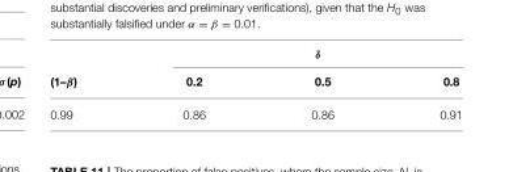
<table><thead><tr><td rowspan="2">(1–β)</td><td colspan="3">δ</td></tr><tr><td>0.2</td><td>0.5</td><td>0.8</td></tr></thead><tbody><tr><td>0.99</td><td>0.86</td><td>0.86</td><td>0.91</td></tr></tbody></table>